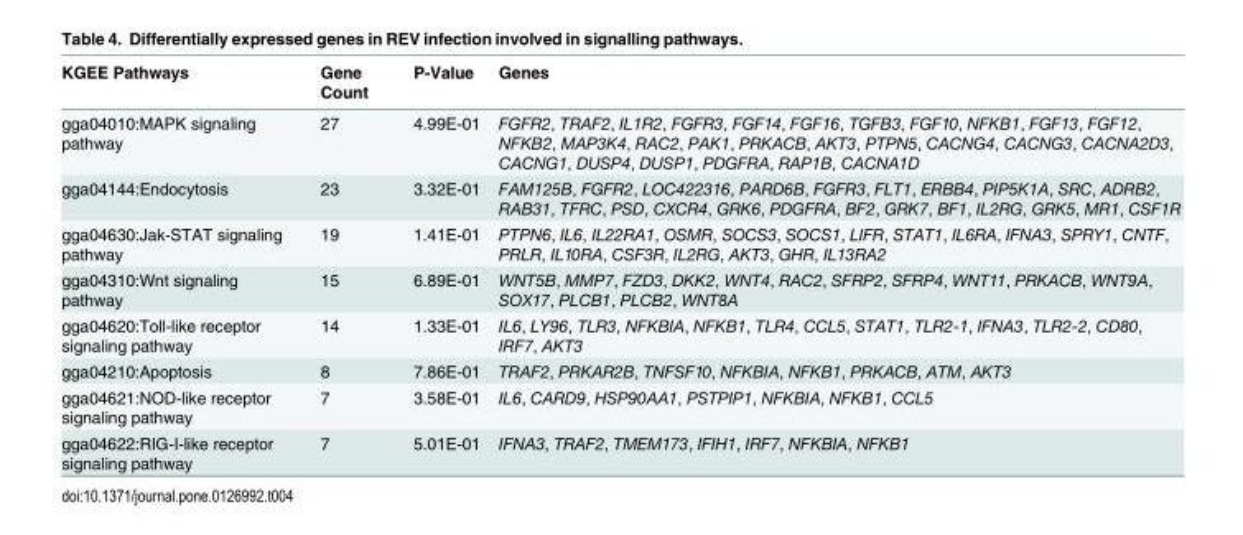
<table><thead><tr><td>KGEE Pathways</td><td>Gene Count</td><td>P-Value</td><td>Genes</td></tr></thead><tbody><tr><td>gga04010:MAPK signaling pathway</td><td>27</td><td>4.99E-01</td><td>FGFR2, TRAF2, IL1R2, FGFR3, FGF14, FGF16, TGFB3, FGF10, NFKB1, FGF13, FGF12, NFKB2, MAP3K4, RAC2, PAK1, PRKACB, AKT3, PTPN5, CACNG4, CACNG3, CACNA2D3, CACNG1, DUSP4, DUSP1, PDGFRA, RAP1B, CACNA1D</td></tr><tr><td>gga04144:Endocytosis</td><td>23</td><td>3.32E-01</td><td>FAM125B, FGFR2, LOC422316, PARD6B, FGFR3, FLT1, ERBB4, PIP5K1A, SRC, ADRB2, RAB31, TFRC, PSD, CXCR4, GRK6, PDGFRA, BF2, GRK7, BF1, IL2RG, GRK5, MR1, CSF1R</td></tr><tr><td>gga04630:Jak-STAT signaling pathway</td><td>19</td><td>1.41E-01</td><td>PTPN6, IL6, IL22RA1, OSMR, SOCS3, SOCS1, LIFR, STAT1, IL6RA, IFNA3, SPRY1, CNTF, PRLR, IL10RA, CSF3R, IL2RG, AKT3, GHR, IL13RA2</td></tr><tr><td>gga04310:Wnt signaling pathway</td><td>15</td><td>6.89E-01</td><td>WNT5B, MMP7, FZD3, DKK2, WNT4, RAC2, SFRP2, SFRP4, WNT11, PRKACB, WNT9A, SOX17, PLCB1, PLCB2, WNT8A</td></tr><tr><td>gga04620:Toll-like receptor signaling pathway</td><td>14</td><td>1.33E-01</td><td>IL6, LY96, TLR3, NFKBIA, NFKB1, TLR4, CCL5, STAT1, TLR2-1, IFNA3, TLR2-2, CD80, IRF7, AKT3</td></tr><tr><td>gga04210:Apoptosis</td><td>8</td><td>7.86E-01</td><td>TRAF2, PRKAR2B, TNFSF10, NFKBIA, NFKB1, PRKACB, ATM, AKT3</td></tr><tr><td>gga04621:NOD-like receptor signaling pathway</td><td>7</td><td>3.58E-01</td><td>IL6, CARD9, HSP90AA1, PSTPIP1, NFKBIA, NFKB1, CCL5</td></tr><tr><td>gga04622:RIG-I-like receptor signaling pathway</td><td>7</td><td>5.01E-01</td><td>IFNA3, TRAF2, TMEM173, IFIH1, IRF7, NFKBIA, NFKB1</td></tr></tbody></table>